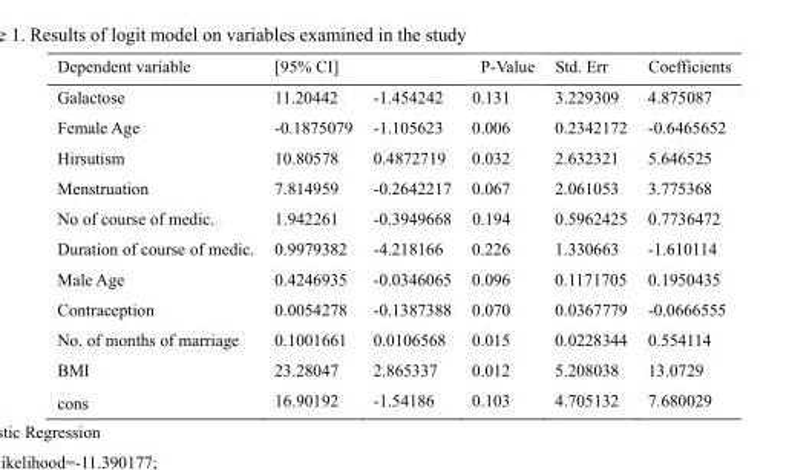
<table><thead><tr><td>Dependent variable</td><td>[95% CI]</td><td></td><td>P-Value</td><td>Std. Err</td><td>Coefficients</td></tr></thead><tbody><tr><td>Galactose</td><td>11.20442</td><td>-1.454242</td><td>0.131</td><td>3.229309</td><td>4.875087</td></tr><tr><td>Female Age</td><td>-0.1875079</td><td>-1.105623</td><td>0.006</td><td>0.2342172</td><td>-0.6465652</td></tr><tr><td>Hirsutism</td><td>10.80578</td><td>0.4872719</td><td>0.032</td><td>2.632321</td><td>5.646525</td></tr><tr><td>Menstruation</td><td>7.814959</td><td>-0.2642217</td><td>0.067</td><td>2.061053</td><td>3.775368</td></tr><tr><td>No of course of medic.</td><td>1.942261</td><td>-0.3949668</td><td>0.194</td><td>0.5962425</td><td>0.7736472</td></tr><tr><td>Duration of course of medic.</td><td>0.9979382</td><td>-4.218166</td><td>0.226</td><td>1.330663</td><td>-1.610114</td></tr><tr><td>Male Age</td><td>0.4246935</td><td>-0.0346065</td><td>0.096</td><td>0.1171705</td><td>0.1950435</td></tr><tr><td>Contraception</td><td>0.0054278</td><td>-0.1387388</td><td>0.070</td><td>0.0367779</td><td>-0.0666555</td></tr><tr><td>No. of months of marriage</td><td>0.1001661</td><td>0.0106568</td><td>0.015</td><td>0.0228344</td><td>0.554114</td></tr><tr><td>BMI</td><td>23.28047</td><td>2.865337</td><td>0.012</td><td>5.208038</td><td>13.0729</td></tr><tr><td>cons</td><td>16.90192</td><td>-1.54186</td><td>0.103</td><td>4.705132</td><td>7.680029</td></tr></tbody></table>